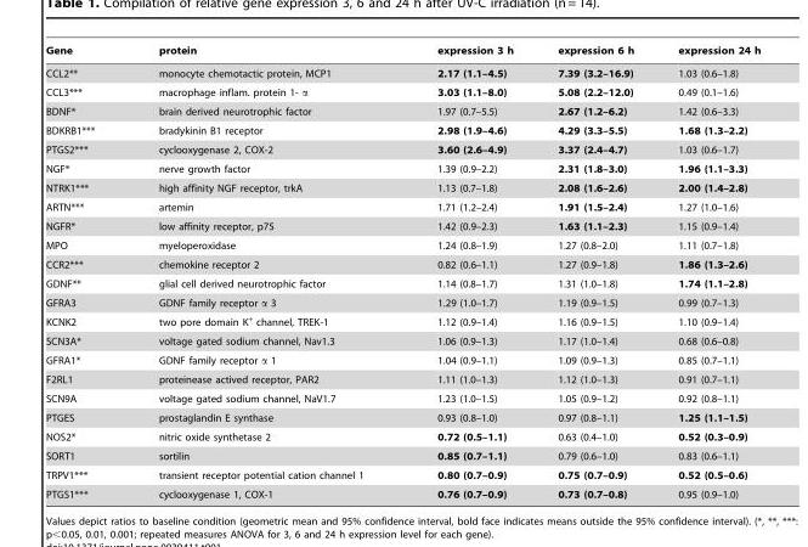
<table><thead><tr><td>Gene</td><td>protein</td><td>expression 3 h</td><td>expression 6 h</td><td>expression 24 h</td></tr></thead><tbody><tr><td>CCL2**</td><td>monocyte chemotactic protein, MCP1</td><td>2.17 (1.1–4.5)</td><td>7.39 (3.2–16.9)</td><td>1.03 (0.6–1.8)</td></tr><tr><td>CCL3***</td><td>macrophage inflam. protein 1- α</td><td>3.03 (1.1–8.0)</td><td>5.08 (2.2–12.0)</td><td>0.49 (0.1–1.6)</td></tr><tr><td>BDNF*</td><td>brain derived neurotrophic factor</td><td>1.97 (0.7–5.5)</td><td>2.67 (1.2–6.2)</td><td>1.42 (0.6–3.3)</td></tr><tr><td>BDKRB1***</td><td>bradykinin B1 receptor</td><td>2.98 (1.9–4.6)</td><td>4.29 (3.3–5.5)</td><td>1.68 (1.3–2.2)</td></tr><tr><td>PTGS2***</td><td>cyclooxygenase 2, COX-2</td><td>3.60 (2.6–4.9)</td><td>3.37 (2.4–4.7)</td><td>1.03 (0.6–1.7)</td></tr><tr><td>NGF*</td><td>nerve growth factor</td><td>1.39 (0.9–2.2)</td><td>2.31 (1.8–3.0)</td><td>1.96 (1.1–3.3)</td></tr><tr><td>NTRK1***</td><td>high affinity NGF receptor, trkA</td><td>1.13 (0.7–1.8)</td><td>2.08 (1.6–2.6)</td><td>2.00 (1.4–2.8)</td></tr><tr><td>ARTN***</td><td>artemin</td><td>1.71 (1.2–2.4)</td><td>1.91 (1.5–2.4)</td><td>1.27 (1.0–1.6)</td></tr><tr><td>NGFR*</td><td>low affinity receptor, p75</td><td>1.42 (0.9–2.3)</td><td>1.63 (1.1–2.3)</td><td>1.15 (0.9–1.4)</td></tr><tr><td>MPO</td><td>myeloperoxidase</td><td>1.24 (0.8–1.9)</td><td>1.27 (0.8–2.0)</td><td>1.11 (0.7–1.8)</td></tr><tr><td>CCR2***</td><td>chemokine receptor 2</td><td>0.82 (0.6–1.1)</td><td>1.27 (0.9–1.8)</td><td>1.86 (1.3–2.6)</td></tr><tr><td>GDNF**</td><td>glial cell derived neurotrophic factor</td><td>1.14 (0.8–1.7)</td><td>1.31 (1.0–1.8)</td><td>1.74 (1.1–2.8)</td></tr><tr><td>GFRA3</td><td>GDNF family receptor α 3</td><td>1.29 (1.0–1.7)</td><td>1.19 (0.9–1.5)</td><td>0.99 (0.7–1.3)</td></tr><tr><td>KCNK2</td><td>two pore domain K<sup>+</sup> channel, TREK-1</td><td>1.12 (0.9–1.4)</td><td>1.16 (0.9–1.5)</td><td>1.10 (0.9–1.4)</td></tr><tr><td>SCN3A*</td><td>voltage gated sodium channel, Nav1.3</td><td>1.06 (0.9–1.3)</td><td>1.17 (1.0–1.4)</td><td>0.68 (0.6–0.8)</td></tr><tr><td>GFRA1*</td><td>GDNF family receptor α 1</td><td>1.04 (0.9–1.1)</td><td>1.09 (0.9–1.3)</td><td>0.85 (0.7–1.1)</td></tr><tr><td>F2RL1</td><td>proteinease actived receptor, PAR2</td><td>1.11 (1.0–1.3)</td><td>1.12 (1.0–1.3)</td><td>0.91 (0.7–1.1)</td></tr><tr><td>SCN9A</td><td>voltage gated sodium channel, NaV1.7</td><td>1.23 (1.0–1.5)</td><td>1.05 (0.9–1.2)</td><td>0.92 (0.8–1.1)</td></tr><tr><td>PTGES</td><td>prostaglandin E synthase</td><td>0.93 (0.8–1.0)</td><td>0.97 (0.8–1.1)</td><td>1.25 (1.1–1.5)</td></tr><tr><td>NOS2*</td><td>nitric oxide synthetase 2</td><td>0.72 (0.5–1.1)</td><td>0.63 (0.4–1.0)</td><td>0.52 (0.3–0.9)</td></tr><tr><td>SORT1</td><td>sortilin</td><td>0.85 (0.7–1.1)</td><td>0.79 (0.6–1.0)</td><td>0.83 (0.6–1.1)</td></tr><tr><td>TRPV1***</td><td>transient receptor potential cation channel 1</td><td>0.80 (0.7–0.9)</td><td>0.75 (0.7–0.9)</td><td>0.52 (0.5–0.6)</td></tr><tr><td>PTGS1***</td><td>cyclooxygenase 1, COX-1</td><td>0.76 (0.7–0.9)</td><td>0.73 (0.7–0.8)</td><td>0.95 (0.9–1.0)</td></tr></tbody></table>